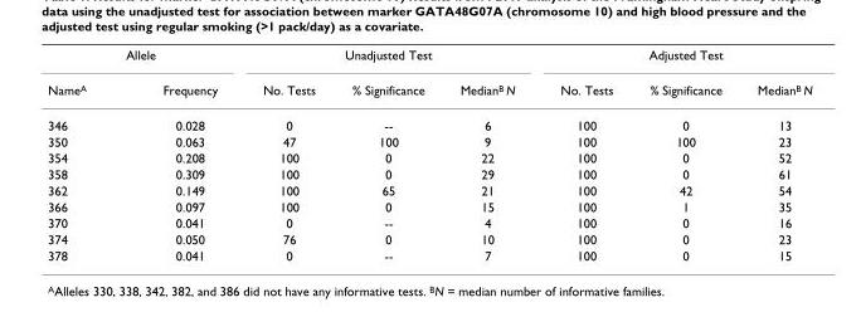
<table><thead><tr><td colspan="2">Allele</td><td colspan="3">Unadjusted Test</td><td colspan="3">Adjusted Test</td></tr><tr><td>NameA</td><td>Frequency</td><td>No. Tests</td><td>% Significance</td><td>MedianB N</td><td>No. Tests</td><td>% Significance</td><td>MedianB N</td></tr></thead><tbody><tr><td>346</td><td>0.028</td><td>0</td><td>--</td><td>6</td><td>100</td><td>0</td><td>13</td></tr><tr><td>350</td><td>0.063</td><td>47</td><td>100</td><td>9</td><td>100</td><td>100</td><td>23</td></tr><tr><td>354</td><td>0.208</td><td>100</td><td>0</td><td>22</td><td>100</td><td>0</td><td>52</td></tr><tr><td>358</td><td>0.309</td><td>100</td><td>0</td><td>29</td><td>100</td><td>0</td><td>61</td></tr><tr><td>362</td><td>0.149</td><td>100</td><td>65</td><td>21</td><td>100</td><td>42</td><td>54</td></tr><tr><td>366</td><td>0.097</td><td>100</td><td>0</td><td>15</td><td>100</td><td>1</td><td>35</td></tr><tr><td>370</td><td>0.041</td><td>0</td><td>--</td><td>4</td><td>100</td><td>0</td><td>16</td></tr><tr><td>374</td><td>0.050</td><td>76</td><td>0</td><td>10</td><td>100</td><td>0</td><td>23</td></tr><tr><td>378</td><td>0.041</td><td>0</td><td>--</td><td>7</td><td>100</td><td>0</td><td>15</td></tr></tbody></table>